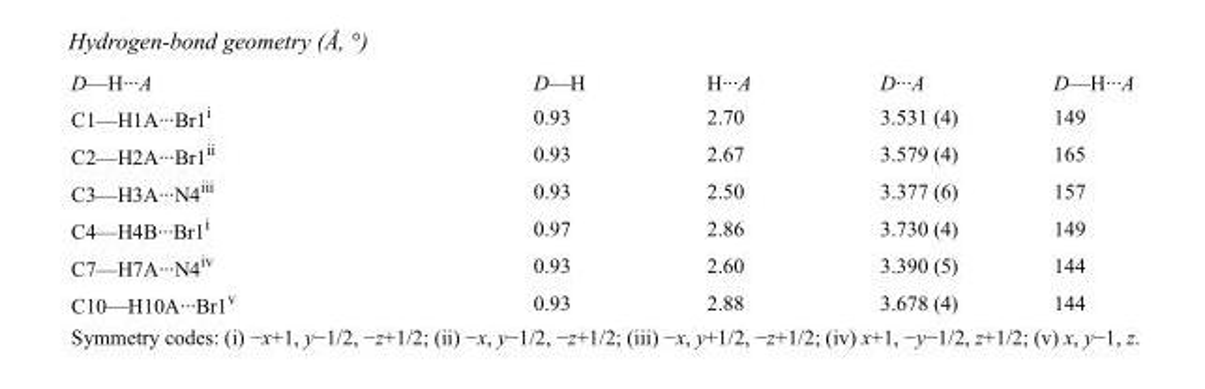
<table><tbody><tr><td>D—H···A</td><td>D—H</td><td>H···A</td><td>D···A</td><td>D—H···A</td></tr><tr><td>C1—H1A···Br1<sup>i</sup></td><td>0.93</td><td>2.70</td><td>3.531 (4)</td><td>149</td></tr><tr><td>C2—H2A···Br1<sup>ii</sup></td><td>0.93</td><td>2.67</td><td>3.579 (4)</td><td>165</td></tr><tr><td>C3—H3A···N4<sup>iii</sup></td><td>0.93</td><td>2.50</td><td>3.377 (6)</td><td>157</td></tr><tr><td>C4—H4B···Br1<sup>i</sup></td><td>0.97</td><td>2.86</td><td>3.730 (4)</td><td>149</td></tr><tr><td>C7—H7A···N4<sup>iv</sup></td><td>0.93</td><td>2.60</td><td>3.390 (5)</td><td>144</td></tr><tr><td>C10—H10A···Br1<sup>v</sup></td><td>0.93</td><td>2.88</td><td>3.678 (4)</td><td>144</td></tr></tbody></table>